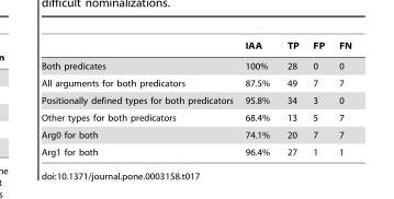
<table><thead><tr><td></td><td>IAA</td><td>TP</td><td>FP</td><td>FN</td></tr></thead><tbody><tr><td>Both predicates</td><td>100%</td><td>28</td><td>0</td><td>0</td></tr><tr><td>All arguments for both predicators</td><td>87.5%</td><td>49</td><td>7</td><td>7</td></tr><tr><td>Positionally defined types for both predicators</td><td>95.8%</td><td>34</td><td>3</td><td>0</td></tr><tr><td>Other types for both predicators</td><td>68.4%</td><td>13</td><td>5</td><td>7</td></tr><tr><td>Arg0 for both</td><td>74.1%</td><td>20</td><td>7</td><td>7</td></tr><tr><td>Arg1 for both</td><td>96.4%</td><td>27</td><td>1</td><td>1</td></tr></tbody></table>